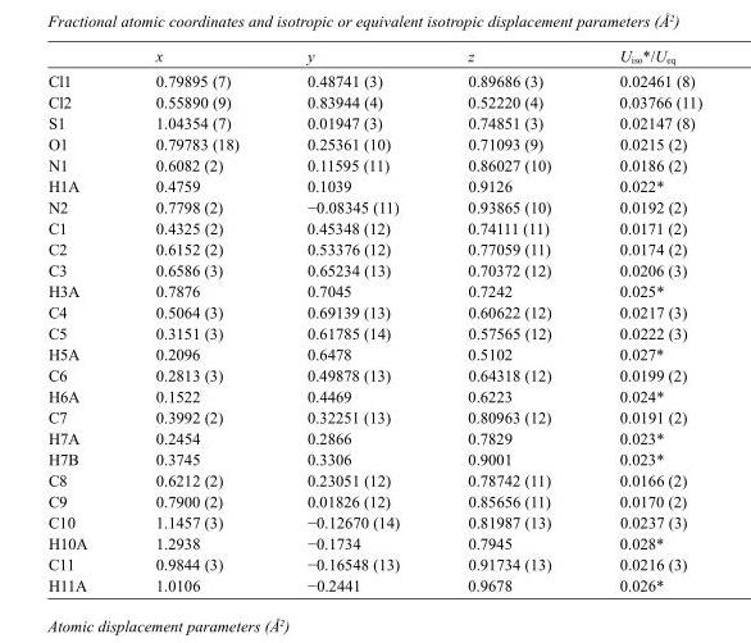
<table><thead><tr><td></td><td>x</td><td>y</td><td>z</td><td>U<sub>iso</sub>*/U<sub>eq</sub></td></tr></thead><tbody><tr><td>Cl1</td><td>0.79895 (7)</td><td>0.48741 (3)</td><td>0.89686 (3)</td><td>0.02461 (8)</td></tr><tr><td>Cl2</td><td>0.55890 (9)</td><td>0.83944 (4)</td><td>0.52220 (4)</td><td>0.03766 (11)</td></tr><tr><td>S1</td><td>1.04354 (7)</td><td>0.01947 (3)</td><td>0.74851 (3)</td><td>0.02147 (8)</td></tr><tr><td>O1</td><td>0.79783 (18)</td><td>0.25361 (10)</td><td>0.71093 (9)</td><td>0.0215 (2)</td></tr><tr><td>N1</td><td>0.6082 (2)</td><td>0.11595 (11)</td><td>0.86027 (10)</td><td>0.0186 (2)</td></tr><tr><td>H1A</td><td>0.4759</td><td>0.1039</td><td>0.9126</td><td>0.022*</td></tr><tr><td>N2</td><td>0.7798 (2)</td><td>−0.08345 (11)</td><td>0.93865 (10)</td><td>0.0192 (2)</td></tr><tr><td>C1</td><td>0.4325 (2)</td><td>0.45348 (12)</td><td>0.74111 (11)</td><td>0.0171 (2)</td></tr><tr><td>C2</td><td>0.6152 (2)</td><td>0.53376 (12)</td><td>0.77059 (11)</td><td>0.0174 (2)</td></tr><tr><td>C3</td><td>0.6586 (3)</td><td>0.65234 (13)</td><td>0.70372 (12)</td><td>0.0206 (3)</td></tr><tr><td>H3A</td><td>0.7876</td><td>0.7045</td><td>0.7242</td><td>0.025*</td></tr><tr><td>C4</td><td>0.5064 (3)</td><td>0.69139 (13)</td><td>0.60622 (12)</td><td>0.0217 (3)</td></tr><tr><td>C5</td><td>0.3151 (3)</td><td>0.61785 (14)</td><td>0.57565 (12)</td><td>0.0222 (3)</td></tr><tr><td>H5A</td><td>0.2096</td><td>0.6478</td><td>0.5102</td><td>0.027*</td></tr><tr><td>C6</td><td>0.2813 (3)</td><td>0.49878 (13)</td><td>0.64318 (12)</td><td>0.0199 (2)</td></tr><tr><td>H6A</td><td>0.1522</td><td>0.4469</td><td>0.6223</td><td>0.024*</td></tr><tr><td>C7</td><td>0.3992 (2)</td><td>0.32251 (13)</td><td>0.80963 (12)</td><td>0.0191 (2)</td></tr><tr><td>H7A</td><td>0.2454</td><td>0.2866</td><td>0.7829</td><td>0.023*</td></tr><tr><td>H7B</td><td>0.3745</td><td>0.3306</td><td>0.9001</td><td>0.023*</td></tr><tr><td>C8</td><td>0.6212 (2)</td><td>0.23051 (12)</td><td>0.78742 (11)</td><td>0.0166 (2)</td></tr><tr><td>C9</td><td>0.7900 (2)</td><td>0.01826 (12)</td><td>0.85656 (11)</td><td>0.0170 (2)</td></tr><tr><td>C10</td><td>1.1457 (3)</td><td>−0.12670 (14)</td><td>0.81987 (13)</td><td>0.0237 (3)</td></tr><tr><td>H10A</td><td>1.2938</td><td>−0.1734</td><td>0.7945</td><td>0.028*</td></tr><tr><td>C11</td><td>0.9844 (3)</td><td>−0.16548 (13)</td><td>0.91734 (13)</td><td>0.0216 (3)</td></tr><tr><td>H11A</td><td>1.0106</td><td>−0.2441</td><td>0.9678</td><td>0.026*</td></tr></tbody></table>